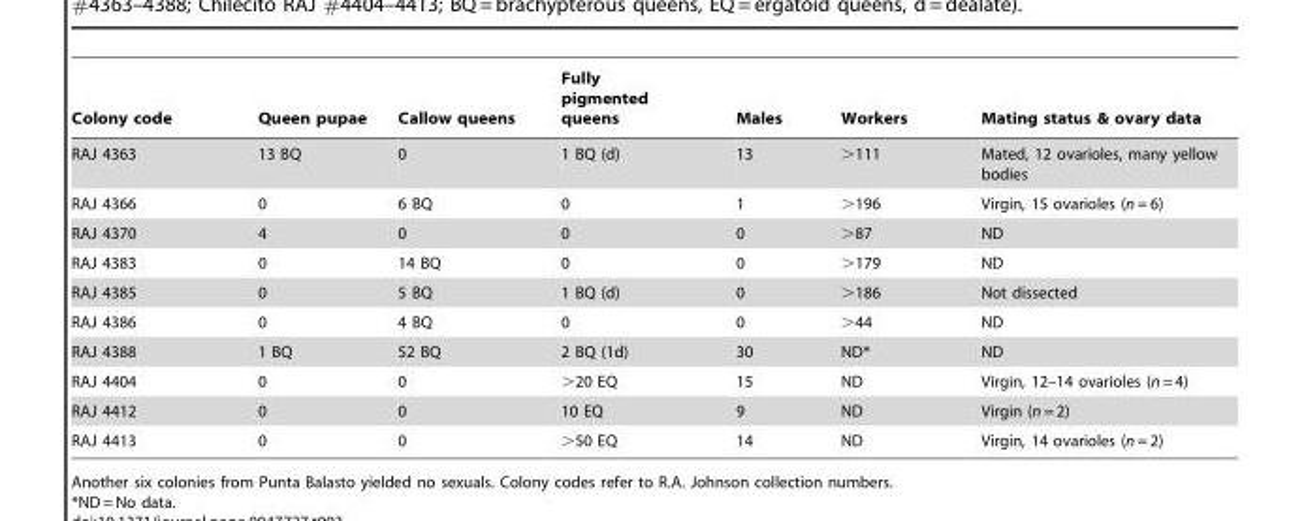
<table><thead><tr><td>Colony code</td><td>Queen pupae</td><td>Callow queens</td><td>Fully pigmented queens</td><td>Males</td><td>Workers</td><td>Mating status &amp; ovary data</td></tr></thead><tbody><tr><td>RAJ 4363</td><td>13 BQ</td><td>0</td><td>1 BQ (d)</td><td>13</td><td>&gt;111</td><td>Mated, 12 ovarioles, many yellow bodies</td></tr><tr><td>RAJ 4366</td><td>0</td><td>6 BQ</td><td>0</td><td>1</td><td>&gt;196</td><td>Virgin, 15 ovarioles (n = 6)</td></tr><tr><td>RAJ 4370</td><td>4</td><td>0</td><td>0</td><td>0</td><td>&gt;87</td><td>ND</td></tr><tr><td>RAJ 4383</td><td>0</td><td>14 BQ</td><td>0</td><td>0</td><td>&gt;179</td><td>ND</td></tr><tr><td>RAJ 4385</td><td>0</td><td>5 BQ</td><td>1 BQ (d)</td><td>0</td><td>&gt;186</td><td>Not dissected</td></tr><tr><td>RAJ 4386</td><td>0</td><td>4 BQ</td><td>0</td><td>0</td><td>&gt;44</td><td>ND</td></tr><tr><td>RAJ 4388</td><td>1 BQ</td><td>52 BQ</td><td>2 BQ (1d)</td><td>30</td><td>ND*</td><td>ND</td></tr><tr><td>RAJ 4404</td><td>0</td><td>0</td><td>&gt;20 EQ</td><td>15</td><td>ND</td><td>Virgin, 12–14 ovarioles (n = 4)</td></tr><tr><td>RAJ 4412</td><td>0</td><td>0</td><td>10 EQ</td><td>9</td><td>ND</td><td>Virgin (n = 2)</td></tr><tr><td>RAJ 4413</td><td>0</td><td>0</td><td>&gt;50 EQ</td><td>14</td><td>ND</td><td>Virgin, 14 ovarioles (n = 2)</td></tr></tbody></table>